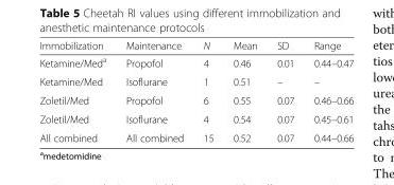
<table><thead><tr><td>Immobilization</td><td>Maintenance</td><td>N</td><td>Mean</td><td>SD</td><td>Range</td></tr></thead><tbody><tr><td>Ketamine/Med<sup>a</sup></td><td>Propofol</td><td>4</td><td>0.46</td><td>0.01</td><td>0.44–0.47</td></tr><tr><td>Ketamine/Med</td><td>Isoflurane</td><td>1</td><td>0.51</td><td>–</td><td>–</td></tr><tr><td>Zoletil/Med</td><td>Propofol</td><td>6</td><td>0.55</td><td>0.07</td><td>0.46–0.66</td></tr><tr><td>Zoletil/Med</td><td>Isoflurane</td><td>4</td><td>0.54</td><td>0.07</td><td>0.45–0.61</td></tr><tr><td>All combined</td><td>All combined</td><td>15</td><td>0.52</td><td>0.07</td><td>0.44–0.66</td></tr></tbody></table>